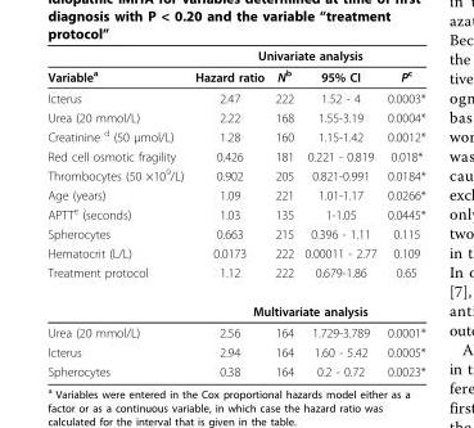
<table><thead><tr><td rowspan="2">Variable<sup>a</sup></td><td colspan="4">Univariate analysis</td></tr><tr><td>Hazard ratio</td><td>N<sup>b</sup></td><td>95% CI</td><td>P<sup>c</sup></td></tr></thead><tbody><tr><td>Icterus</td><td>2.47</td><td>222</td><td>1.52 - 4</td><td>0.0003*</td></tr><tr><td>Urea (20 mmol/L)</td><td>2.22</td><td>168</td><td>1.55-3.19</td><td>0.0004*</td></tr><tr><td>Creatinine <sup>d</sup> (50 μmol/L)</td><td>1.28</td><td>160</td><td>1.15-1.42</td><td>0.0012*</td></tr><tr><td>Red cell osmotic fragility</td><td>0.426</td><td>181</td><td>0.221 - 0.819</td><td>0.018*</td></tr><tr><td>Thrombocytes (50 ×10<sup>9</sup>/L)</td><td>0.902</td><td>205</td><td>0.821-0.991</td><td>0.0184*</td></tr><tr><td>Age (years)</td><td>1.09</td><td>221</td><td>1.01-1.17</td><td>0.0266*</td></tr><tr><td>APTT<sup>e</sup> (seconds)</td><td>1.03</td><td>135</td><td>1-1.05</td><td>0.0445*</td></tr><tr><td>Spherocytes</td><td>0.663</td><td>215</td><td>0.396 - 1.11</td><td>0.115</td></tr><tr><td>Hematocrit (L/L)</td><td>0.0173</td><td>222</td><td>0.00011 - 2.77</td><td>0.109</td></tr><tr><td rowspan="2">Treatment protocol</td><td>1.12</td><td>222</td><td>0.679-1.86</td><td>0.65</td></tr><tr><td colspan="4">Multivariate analysis</td></tr><tr><td>Urea (20 mmol/L)</td><td>2.56</td><td>164</td><td>1.729-3.789</td><td>0.0001*</td></tr><tr><td>Icterus</td><td>2.94</td><td>164</td><td>1.60 - 5.42</td><td>0.0005*</td></tr><tr><td>Spherocytes</td><td>0.38</td><td>164</td><td>0.2 - 0.72</td><td>0.0023*</td></tr></tbody></table>